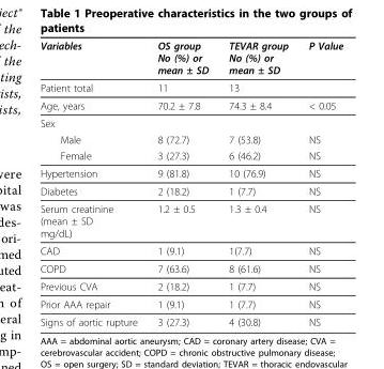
<table><thead><tr><td>Variables</td><td>OS group No (%) or mean ± SD</td><td>TEVAR group No (%) or mean ± SD</td><td>P Value</td></tr></thead><tbody><tr><td>Patient total</td><td>11</td><td>13</td><td></td></tr><tr><td>Age, years</td><td>70.2 ± 7.8</td><td>74.3 ± 8.4</td><td>&lt; 0.05</td></tr><tr><td colspan="4">Sex</td></tr><tr><td>Male</td><td>8 (72.7)</td><td>7 (53.8)</td><td>NS</td></tr><tr><td>Female</td><td>3 (27.3)</td><td>6 (46.2)</td><td>NS</td></tr><tr><td>Hypertension</td><td>9 (81.8)</td><td>10 (76.9)</td><td>NS</td></tr><tr><td>Diabetes</td><td>2 (18.2)</td><td>1 (7.7)</td><td>NS</td></tr><tr><td>Serum creatinine (mean ± SD mg/dL)</td><td>1.2 ± 0.5</td><td>1.3 ± 0.4</td><td>NS</td></tr><tr><td>CAD</td><td>1 (9.1)</td><td>1(7.7)</td><td>NS</td></tr><tr><td>COPD</td><td>7 (63.6)</td><td>8 (61.6)</td><td>NS</td></tr><tr><td>Previous CVA</td><td>2 (18.2)</td><td>1 (7.7)</td><td>NS</td></tr><tr><td>Prior AAA repair</td><td>1 (9.1)</td><td>1 (7.7)</td><td>NS</td></tr><tr><td>Signs of aortic rupture</td><td>3 (27.3)</td><td>4 (30.8)</td><td>NS</td></tr></tbody></table>